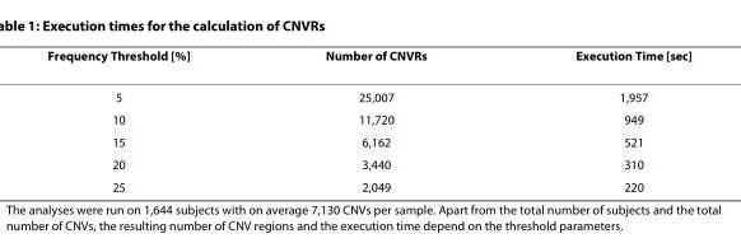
<table><thead><tr><td>Frequency Threshold [%]</td><td>Number of CNVRs</td><td>Execution Time [sec]</td></tr></thead><tbody><tr><td>5</td><td>25,007</td><td>1,957</td></tr><tr><td>10</td><td>11,720</td><td>949</td></tr><tr><td>15</td><td>6,162</td><td>521</td></tr><tr><td>20</td><td>3,440</td><td>310</td></tr><tr><td>25</td><td>2,049</td><td>220</td></tr></tbody></table>